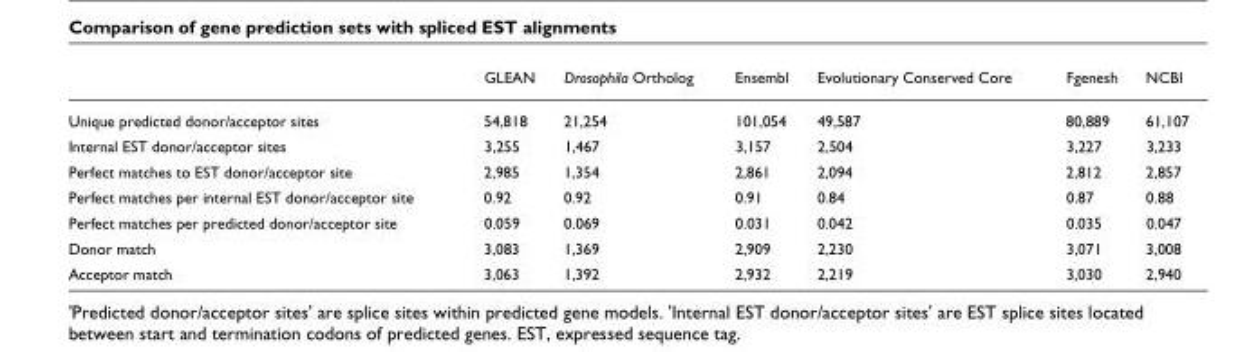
<table><thead><tr><td></td><td>GLEAN</td><td>Drosophila Ortholog</td><td>Ensembl</td><td>Evolutionary Conserved Core</td><td>Fgenesh</td><td>NCBI</td></tr></thead><tbody><tr><td>Unique predicted donor/acceptor sites</td><td>54,818</td><td>21,254</td><td>101,054</td><td>49,587</td><td>80,889</td><td>61,107</td></tr><tr><td>Internal EST donor/acceptor sites</td><td>3,255</td><td>1,467</td><td>3,157</td><td>2,504</td><td>3,227</td><td>3,233</td></tr><tr><td>Perfect matches to EST donor/acceptor site</td><td>2,985</td><td>1,354</td><td>2,861</td><td>2,094</td><td>2,812</td><td>2,857</td></tr><tr><td>Perfect matches per internal EST donor/acceptor site</td><td>0.92</td><td>0.92</td><td>0.91</td><td>0.84</td><td>0.87</td><td>0.88</td></tr><tr><td>Perfect matches per predicted donor/acceptor site</td><td>0.059</td><td>0.069</td><td>0.031</td><td>0.042</td><td>0.035</td><td>0.047</td></tr><tr><td>Donor match</td><td>3,083</td><td>1,369</td><td>2,909</td><td>2,230</td><td>3,071</td><td>3,008</td></tr><tr><td>Acceptor match</td><td>3,063</td><td>1,392</td><td>2,932</td><td>2,219</td><td>3,030</td><td>2,940</td></tr></tbody></table>